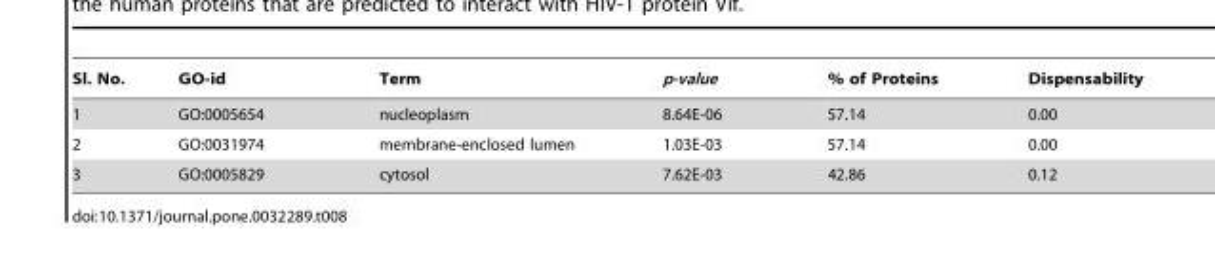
<table><thead><tr><td>Sl. No.</td><td>GO-id</td><td>Term</td><td>p-value</td><td>% of Proteins</td><td>Dispensability</td></tr></thead><tbody><tr><td>1</td><td>GO:0005654</td><td>nucleoplasm</td><td>8.64E-06</td><td>57.14</td><td>0.00</td></tr><tr><td>2</td><td>GO:0031974</td><td>membrane-enclosed lumen</td><td>1.03E-03</td><td>57.14</td><td>0.00</td></tr><tr><td>3</td><td>GO:0005829</td><td>cytosol</td><td>7.62E-03</td><td>42.86</td><td>0.12</td></tr></tbody></table>